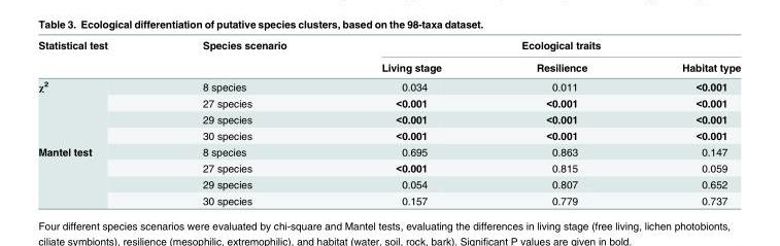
<table><thead><tr><td rowspan="2">Statistical test</td><td rowspan="2">Species scenario</td><td colspan="3">Ecological traits</td></tr><tr><td>Living stage</td><td>Resilience</td><td>Habitat type</td></tr></thead><tbody><tr><td rowspan="4">χ<sup>2</sup></td><td>8 species</td><td>0.034</td><td>0.011</td><td>&lt;0.001</td></tr><tr><td>27 species</td><td>&lt;0.001</td><td>&lt;0.001</td><td>&lt;0.001</td></tr><tr><td>29 species</td><td>&lt;0.001</td><td>&lt;0.001</td><td>&lt;0.001</td></tr><tr><td>30 species</td><td>&lt;0.001</td><td>&lt;0.001</td><td>&lt;0.001</td></tr><tr><td rowspan="4">Mantel test</td><td>8 species</td><td>0.695</td><td>0.863</td><td>0.147</td></tr><tr><td>27 species</td><td>&lt;0.001</td><td>0.815</td><td>0.059</td></tr><tr><td>29 species</td><td>0.054</td><td>0.807</td><td>0.652</td></tr><tr><td>30 species</td><td>0.157</td><td>0.779</td><td>0.737</td></tr></tbody></table>